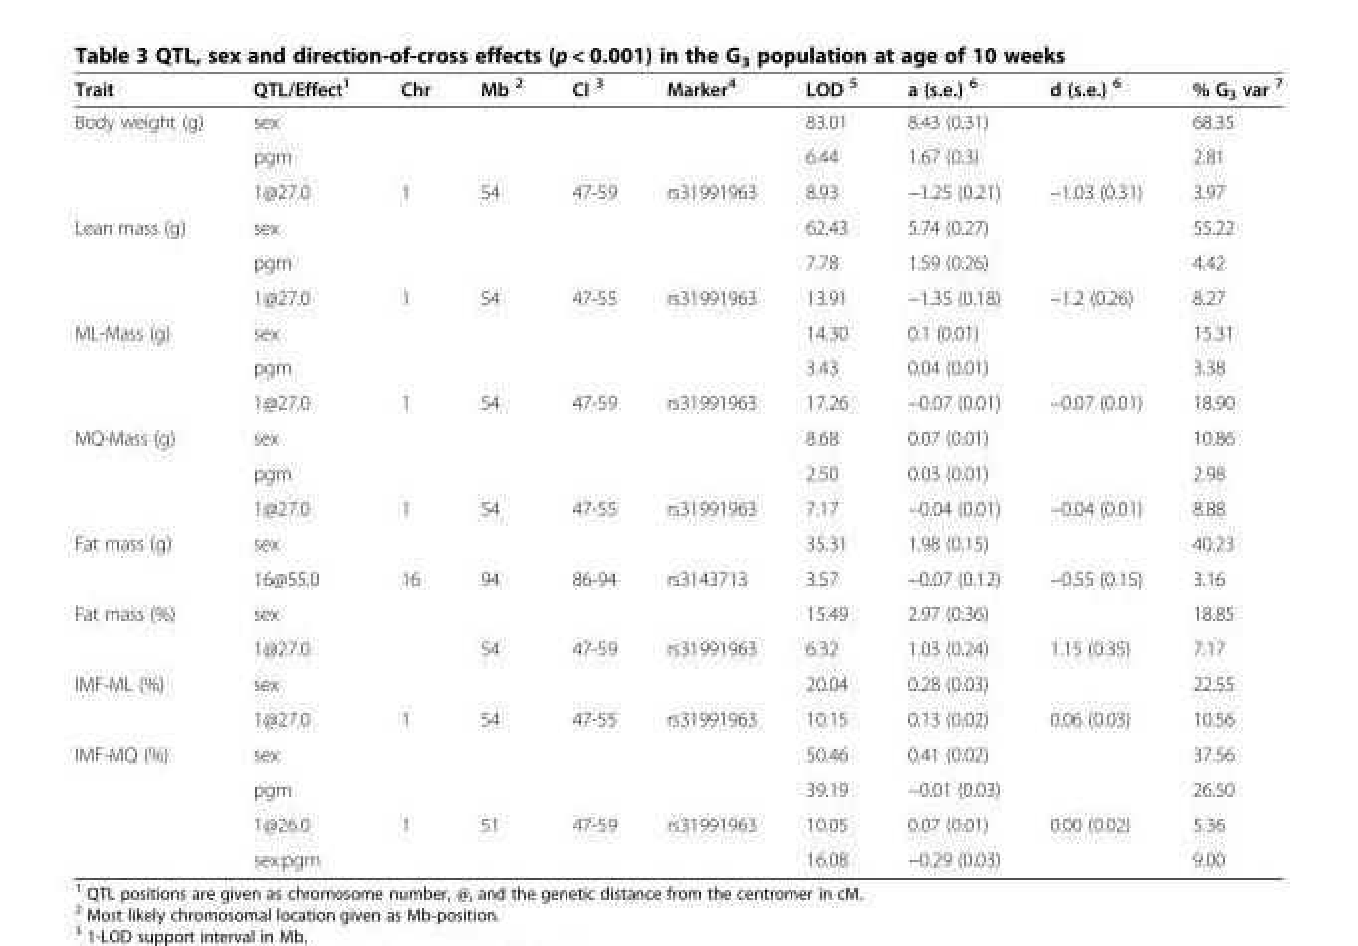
<table><thead><tr><td>Trait</td><td>QTL/Effect<sup>1</sup></td><td>Chr</td><td>Mb <sup>2</sup></td><td>CI <sup>3</sup></td><td>Marker<sup>4</sup></td><td>LOD <sup>5</sup></td><td>a (s.e.) <sup>6</sup></td><td>d (s.e.) <sup>6</sup></td><td>% G<sub>3</sub> var <sup>7</sup></td></tr></thead><tbody><tr><td rowspan="3">Body weight (g)</td><td>sex</td><td></td><td></td><td></td><td></td><td>83.01</td><td>8.43 (0.31)</td><td></td><td>68.35</td></tr><tr><td>pgm</td><td></td><td></td><td></td><td></td><td>6.44</td><td>1.67 (0.3)</td><td></td><td>2.81</td></tr><tr><td>1@27.0</td><td>1</td><td>54</td><td>47-59</td><td>rs31991963</td><td>8.93</td><td>−1.25 (0.21)</td><td>−1.03 (0.31)</td><td>3.97</td></tr><tr><td rowspan="3">Lean mass (g)</td><td>sex</td><td></td><td></td><td></td><td></td><td>62.43</td><td>5.74 (0.27)</td><td></td><td>55.22</td></tr><tr><td>pgm</td><td></td><td></td><td></td><td></td><td>7.78</td><td>1.59 (0.26)</td><td></td><td>4.42</td></tr><tr><td>1@27.0</td><td>1</td><td>54</td><td>47-55</td><td>rs31991963</td><td>13.91</td><td>−1.35 (0.18)</td><td>−1.2 (0.26)</td><td>8.27</td></tr><tr><td rowspan="3">ML-Mass (g)</td><td>sex</td><td></td><td></td><td></td><td></td><td>14.30</td><td>0.1 (0.01)</td><td></td><td>15.31</td></tr><tr><td>pgm</td><td></td><td></td><td></td><td></td><td>3.43</td><td>0.04 (0.01)</td><td></td><td>3.38</td></tr><tr><td>1@27.0</td><td>1</td><td>54</td><td>47-59</td><td>rs31991963</td><td>17.26</td><td>−0.07 (0.01)</td><td>−0.07 (0.01)</td><td>18.90</td></tr><tr><td rowspan="3">MQ-Mass (g)</td><td>sex</td><td></td><td></td><td></td><td></td><td>8.68</td><td>0.07 (0.01)</td><td></td><td>10.86</td></tr><tr><td>pgm</td><td></td><td></td><td></td><td></td><td>2.50</td><td>0.03 (0.01)</td><td></td><td>2.98</td></tr><tr><td>1@27.0</td><td>1</td><td>54</td><td>47-55</td><td>rs31991963</td><td>7.17</td><td>−0.04 (0.01)</td><td>−0.04 (0.01)</td><td>8.88</td></tr><tr><td rowspan="2">Fat mass (g)</td><td>sex</td><td></td><td></td><td></td><td></td><td>35.31</td><td>1.98 (0.15)</td><td></td><td>40.23</td></tr><tr><td>16@55.0</td><td>16</td><td>94</td><td>86-94</td><td>rs3143713</td><td>3.57</td><td>−0.07 (0.12)</td><td>−0.55 (0.15)</td><td>3.16</td></tr><tr><td rowspan="2">Fat mass (%)</td><td>sex</td><td></td><td></td><td></td><td></td><td>15.49</td><td>2.97 (0.36)</td><td></td><td>18.85</td></tr><tr><td>1@27.0</td><td></td><td>54</td><td>47-59</td><td>rs31991963</td><td>6.32</td><td>1.03 (0.24)</td><td>1.15 (0.35)</td><td>7.17</td></tr><tr><td rowspan="2">IMF-ML (%)</td><td>sex</td><td></td><td></td><td></td><td></td><td>20.04</td><td>0.28 (0.03)</td><td></td><td>22.55</td></tr><tr><td>1@27.0</td><td>1</td><td>54</td><td>47-55</td><td>rs31991963</td><td>10.15</td><td>0.13 (0.02)</td><td>0.06 (0.03)</td><td>10.56</td></tr><tr><td rowspan="4">IMF-MQ (%)</td><td>sex</td><td></td><td></td><td></td><td></td><td>50.46</td><td>0.41 (0.02)</td><td></td><td>37.56</td></tr><tr><td>pgm</td><td></td><td></td><td></td><td></td><td>39.19</td><td>−0.01 (0.03)</td><td></td><td>26.50</td></tr><tr><td>1@26.0</td><td>1</td><td>51</td><td>47-59</td><td>rs31991963</td><td>10.05</td><td>0.07 (0.01)</td><td>0.00 (0.02)</td><td>5.36</td></tr><tr><td>sex:pgm</td><td></td><td></td><td></td><td></td><td>16.08</td><td>−0.29 (0.03)</td><td></td><td>9.00</td></tr></tbody></table>